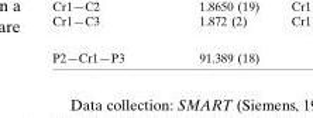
<table><tbody><tr><td>P2—Cr1—P3</td><td>91.389 (18)</td></tr></tbody></table>